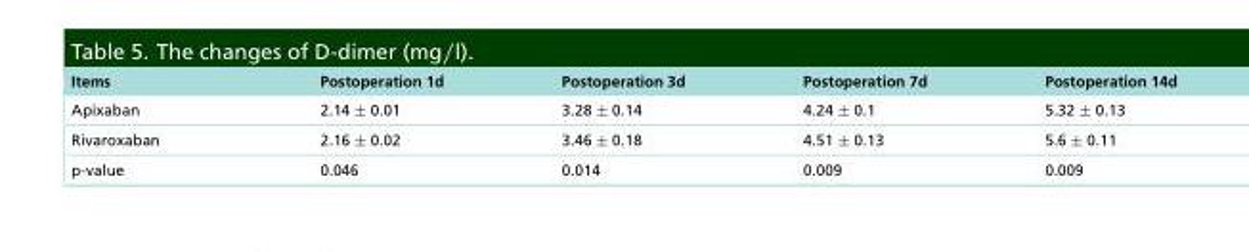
<table><thead><tr><td>Items</td><td>Postoperation 1d</td><td>Postoperation 3d</td><td>Postoperation 7d</td><td>Postoperation 14d</td></tr></thead><tbody><tr><td>Apixaban</td><td>2.14 ± 0.01</td><td>3.28 ± 0.14</td><td>4.24 ± 0.1</td><td>5.32 ± 0.13</td></tr><tr><td>Rivaroxaban</td><td>2.16 ± 0.02</td><td>3.46 ± 0.18</td><td>4.51 ± 0.13</td><td>5.6 ± 0.11</td></tr><tr><td>p-value</td><td>0.046</td><td>0.014</td><td>0.009</td><td>0.009</td></tr></tbody></table>